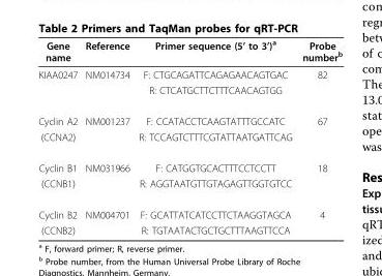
<table><thead><tr><td>Gene name</td><td>Reference</td><td>Primer sequence (5’ to 3’)<sup>a</sup></td><td>Probe number<sup>b</sup></td></tr></thead><tbody><tr><td rowspan="2">KIAA0247</td><td>NM014734</td><td>F: CTGCAGATTCAGAGAACAGTGAC</td><td>82</td></tr><tr><td></td><td>R: CTCATGCTTCTTTCAACAGTGG</td><td></td></tr><tr><td>Cyclin A2</td><td>NM001237</td><td>F: CCATACCTCAAGTATTTGCCATC</td><td>67</td></tr><tr><td>(CCNA2)</td><td></td><td>R: TCCAGTCTTTCGTATTAATGATTCAG</td><td></td></tr><tr><td>Cyclin B1</td><td>NM031966</td><td>F: CATGGTGCACTTTCCTCCTT</td><td>18</td></tr><tr><td>(CCNB1)</td><td></td><td>R: AGGTAATGTTGTAGAGTTGGTGTCC</td><td></td></tr><tr><td>Cyclin B2</td><td>NM004701</td><td>F: GCATTATCATCCTTCTAAGGTAGCA</td><td>4</td></tr><tr><td>(CCNB2)</td><td></td><td>R: TGTAATACTGCTGCTTTAAGTTCCA</td><td></td></tr></tbody></table>